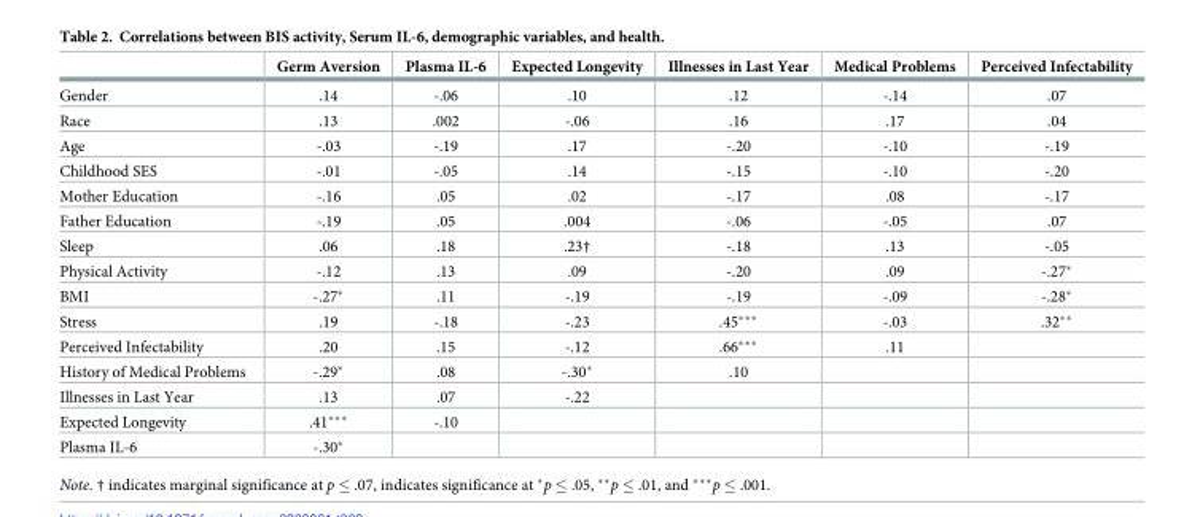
<table><thead><tr><td></td><td>Germ Aversion</td><td>Plasma IL-6</td><td>Expected Longevity</td><td>Illnesses in Last Year</td><td>Medical Problems</td><td>Perceived Infectability</td></tr></thead><tbody><tr><td>Gender</td><td>.14</td><td>-.06</td><td>.10</td><td>.12</td><td>-.14</td><td>.07</td></tr><tr><td>Race</td><td>.13</td><td>.002</td><td>-.06</td><td>.16</td><td>.17</td><td>.04</td></tr><tr><td>Age</td><td>-.03</td><td>-.19</td><td>.17</td><td>-.20</td><td>-.10</td><td>-.19</td></tr><tr><td>Childhood SES</td><td>-.01</td><td>-.05</td><td>.14</td><td>-.15</td><td>-.10</td><td>-.20</td></tr><tr><td>Mother Education</td><td>-.16</td><td>.05</td><td>.02</td><td>-.17</td><td>.08</td><td>-.17</td></tr><tr><td>Father Education</td><td>-.19</td><td>.05</td><td>.004</td><td>-.06</td><td>-.05</td><td>.07</td></tr><tr><td>Sleep</td><td>.06</td><td>.18</td><td>.23†</td><td>-.18</td><td>.13</td><td>-.05</td></tr><tr><td>Physical Activity</td><td>-.12</td><td>.13</td><td>.09</td><td>-.20</td><td>.09</td><td>-.27*</td></tr><tr><td>BMI</td><td>-.27*</td><td>.11</td><td>-.19</td><td>-.19</td><td>-.09</td><td>-.28*</td></tr><tr><td>Stress</td><td>.19</td><td>-.18</td><td>-.23</td><td>.45***</td><td>-.03</td><td>.32**</td></tr><tr><td>Perceived Infectability</td><td>.20</td><td>.15</td><td>-.12</td><td>.66***</td><td>.11</td><td></td></tr><tr><td>History of Medical Problems</td><td>-.29*</td><td>.08</td><td>-.30*</td><td>.10</td><td></td><td></td></tr><tr><td>Illnesses in Last Year</td><td>.13</td><td>.07</td><td>-.22</td><td></td><td></td><td></td></tr><tr><td>Expected Longevity</td><td>.41***</td><td>-.10</td><td></td><td></td><td></td><td></td></tr><tr><td>Plasma IL-6</td><td>-.30*</td><td></td><td></td><td></td><td></td><td></td></tr></tbody></table>